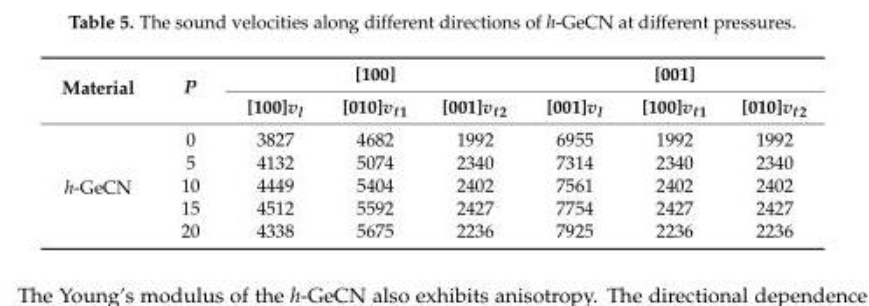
<table><thead><tr><td rowspan="2">Material</td><td rowspan="2">P</td><td colspan="3">[100]</td><td colspan="3">[001]</td></tr><tr><td>[100]v<sub>l</sub></td><td>[010]v<sub>t1</sub></td><td>[001]v<sub>t2</sub></td><td>[001]v<sub>l</sub></td><td>[100]v<sub>t1</sub></td><td>[010]v<sub>t2</sub></td></tr></thead><tbody><tr><td rowspan="5">h-GeCN</td><td>0</td><td>3827</td><td>4682</td><td>1992</td><td>6955</td><td>1992</td><td>1992</td></tr><tr><td>5</td><td>4132</td><td>5074</td><td>2340</td><td>7314</td><td>2340</td><td>2340</td></tr><tr><td>10</td><td>4449</td><td>5404</td><td>2402</td><td>7561</td><td>2402</td><td>2402</td></tr><tr><td>15</td><td>4512</td><td>5592</td><td>2427</td><td>7754</td><td>2427</td><td>2427</td></tr><tr><td>20</td><td>4338</td><td>5675</td><td>2236</td><td>7925</td><td>2236</td><td>2236</td></tr></tbody></table>